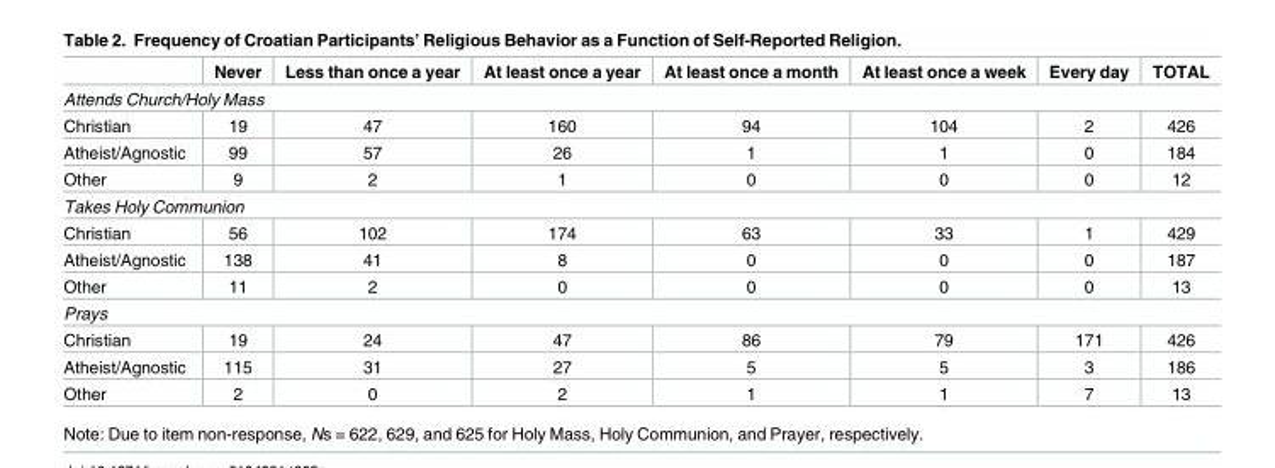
<table><thead><tr><td></td><td>Never</td><td>Less than once a year</td><td>At least once a year</td><td>At least once a month</td><td>At least once a week</td><td>Every day</td><td>TOTAL</td></tr></thead><tbody><tr><td colspan="8">Attends Church/Holy Mass</td></tr><tr><td>Christian</td><td>19</td><td>47</td><td>160</td><td>94</td><td>104</td><td>2</td><td>426</td></tr><tr><td>Atheist/Agnostic</td><td>99</td><td>57</td><td>26</td><td>1</td><td>1</td><td>0</td><td>184</td></tr><tr><td>Other</td><td>9</td><td>2</td><td>1</td><td>0</td><td>0</td><td>0</td><td>12</td></tr><tr><td colspan="8">Takes Holy Communion</td></tr><tr><td>Christian</td><td>56</td><td>102</td><td>174</td><td>63</td><td>33</td><td>1</td><td>429</td></tr><tr><td>Atheist/Agnostic</td><td>138</td><td>41</td><td>8</td><td>0</td><td>0</td><td>0</td><td>187</td></tr><tr><td>Other</td><td>11</td><td>2</td><td>0</td><td>0</td><td>0</td><td>0</td><td>13</td></tr><tr><td colspan="8">Prays</td></tr><tr><td>Christian</td><td>19</td><td>24</td><td>47</td><td>86</td><td>79</td><td>171</td><td>426</td></tr><tr><td>Atheist/Agnostic</td><td>115</td><td>31</td><td>27</td><td>5</td><td>5</td><td>3</td><td>186</td></tr><tr><td>Other</td><td>2</td><td>0</td><td>2</td><td>1</td><td>1</td><td>7</td><td>13</td></tr></tbody></table>